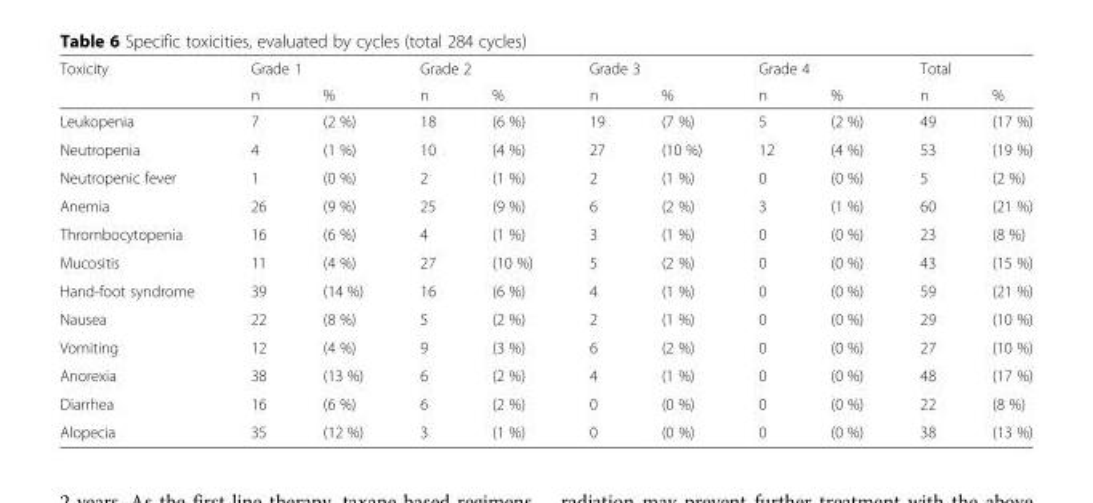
<table><thead><tr><td rowspan="2">Toxicity</td><td colspan="2">Grade 1</td><td colspan="2">Grade 2</td><td colspan="2">Grade 3</td><td colspan="2">Grade 4</td><td colspan="2">Total</td></tr><tr><td>n</td><td>%</td><td>n</td><td>%</td><td>n</td><td>%</td><td>n</td><td>%</td><td>n</td><td>%</td></tr></thead><tbody><tr><td>Leukopenia</td><td>7</td><td>(2 %)</td><td>18</td><td>(6 %)</td><td>19</td><td>(7 %)</td><td>5</td><td>(2 %)</td><td>49</td><td>(17 %)</td></tr><tr><td>Neutropenia</td><td>4</td><td>(1 %)</td><td>10</td><td>(4 %)</td><td>27</td><td>(10 %)</td><td>12</td><td>(4 %)</td><td>53</td><td>(19 %)</td></tr><tr><td>Neutropenic fever</td><td>1</td><td>(0 %)</td><td>2</td><td>(1 %)</td><td>2</td><td>(1 %)</td><td>0</td><td>(0 %)</td><td>5</td><td>(2 %)</td></tr><tr><td>Anemia</td><td>26</td><td>(9 %)</td><td>25</td><td>(9 %)</td><td>6</td><td>(2 %)</td><td>3</td><td>(1 %)</td><td>60</td><td>(21 %)</td></tr><tr><td>Thrombocytopenia</td><td>16</td><td>(6 %)</td><td>4</td><td>(1 %)</td><td>3</td><td>(1 %)</td><td>0</td><td>(0 %)</td><td>23</td><td>(8 %)</td></tr><tr><td>Mucositis</td><td>11</td><td>(4 %)</td><td>27</td><td>(10 %)</td><td>5</td><td>(2 %)</td><td>0</td><td>(0 %)</td><td>43</td><td>(15 %)</td></tr><tr><td>Hand-foot syndrome</td><td>39</td><td>(14 %)</td><td>16</td><td>(6 %)</td><td>4</td><td>(1 %)</td><td>0</td><td>(0 %)</td><td>59</td><td>(21 %)</td></tr><tr><td>Nausea</td><td>22</td><td>(8 %)</td><td>5</td><td>(2 %)</td><td>2</td><td>(1 %)</td><td>0</td><td>(0 %)</td><td>29</td><td>(10 %)</td></tr><tr><td>Vomiting</td><td>12</td><td>(4 %)</td><td>9</td><td>(3 %)</td><td>6</td><td>(2 %)</td><td>0</td><td>(0 %)</td><td>27</td><td>(10 %)</td></tr><tr><td>Anorexia</td><td>38</td><td>(13 %)</td><td>6</td><td>(2 %)</td><td>4</td><td>(1 %)</td><td>0</td><td>(0 %)</td><td>48</td><td>(17 %)</td></tr><tr><td>Diarrhea</td><td>16</td><td>(6 %)</td><td>6</td><td>(2 %)</td><td>0</td><td>(0 %)</td><td>0</td><td>(0 %)</td><td>22</td><td>(8 %)</td></tr><tr><td>Alopecia</td><td>35</td><td>(12 %)</td><td>3</td><td>(1 %)</td><td>0</td><td>(0 %)</td><td>0</td><td>(0 %)</td><td>38</td><td>(13 %)</td></tr></tbody></table>